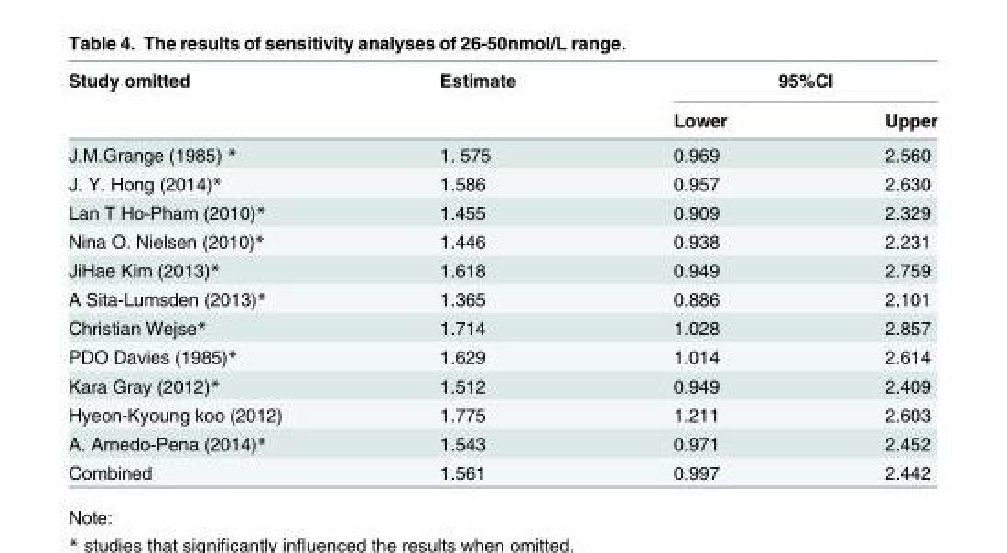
<table><thead><tr><td rowspan="2">Study omitted</td><td rowspan="2">Estimate</td><td colspan="2">95%CI</td></tr><tr><td>Lower</td><td>Upper</td></tr></thead><tbody><tr><td>J.M.Grange (1985) *</td><td>1. 575</td><td>0.969</td><td>2.560</td></tr><tr><td>J. Y. Hong (2014)*</td><td>1.586</td><td>0.957</td><td>2.630</td></tr><tr><td>Lan T Ho-Pham (2010)*</td><td>1.455</td><td>0.909</td><td>2.329</td></tr><tr><td>Nina O. Nielsen (2010)*</td><td>1.446</td><td>0.938</td><td>2.231</td></tr><tr><td>JiHae Kim (2013)*</td><td>1.618</td><td>0.949</td><td>2.759</td></tr><tr><td>A Sita-Lumsden (2013)*</td><td>1.365</td><td>0.886</td><td>2.101</td></tr><tr><td>Christian Wejse*</td><td>1.714</td><td>1.028</td><td>2.857</td></tr><tr><td>PDO Davies (1985)*</td><td>1.629</td><td>1.014</td><td>2.614</td></tr><tr><td>Kara Gray (2012)*</td><td>1.512</td><td>0.949</td><td>2.409</td></tr><tr><td>Hyeon-Kyoung koo (2012)</td><td>1.775</td><td>1.211</td><td>2.603</td></tr><tr><td>A. Arnedo-Pena (2014)*</td><td>1.543</td><td>0.971</td><td>2.452</td></tr><tr><td>Combined</td><td>1.561</td><td>0.997</td><td>2.442</td></tr></tbody></table>